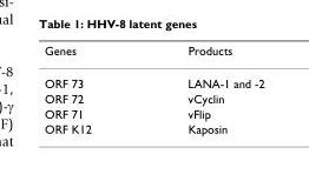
<table><thead><tr><td>Genes</td><td>Products</td></tr></thead><tbody><tr><td>ORF 73</td><td>LANA-1 and -2</td></tr><tr><td>ORF 72</td><td>vCyclin</td></tr><tr><td>ORF 71</td><td>vFlip</td></tr><tr><td>ORF K12</td><td>Kaposin</td></tr></tbody></table>